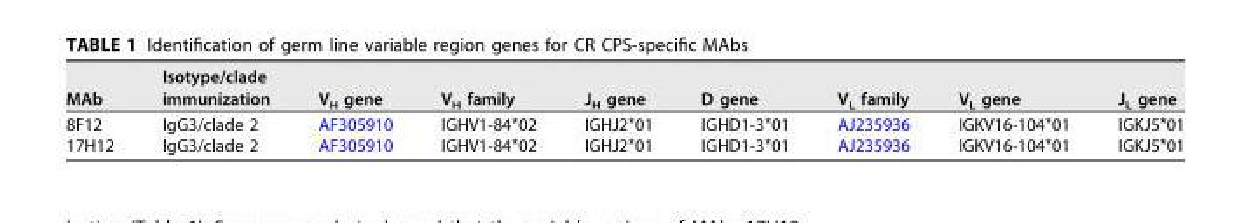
<table><thead><tr><td>MAb</td><td>Isotype/clade immunization</td><td>V<sub>H</sub> gene</td><td>V<sub>H</sub> family</td><td>J<sub>H</sub> gene</td><td>D gene</td><td>V<sub>L</sub> family</td><td>V<sub>L</sub> gene</td><td>J<sub>L</sub> gene</td></tr></thead><tbody><tr><td>8F12</td><td>IgG3/clade 2</td><td>AF305910</td><td>IGHV1-84*02</td><td>IGHJ2*01</td><td>IGHD1-3*01</td><td>AJ235936</td><td>IGKV16-104*01</td><td>IGKJ5*01</td></tr><tr><td>17H12</td><td>IgG3/clade 2</td><td>AF305910</td><td>IGHV1-84*02</td><td>IGHJ2*01</td><td>IGHD1-3*01</td><td>AJ235936</td><td>IGKV16-104*01</td><td>IGKJ5*01</td></tr></tbody></table>